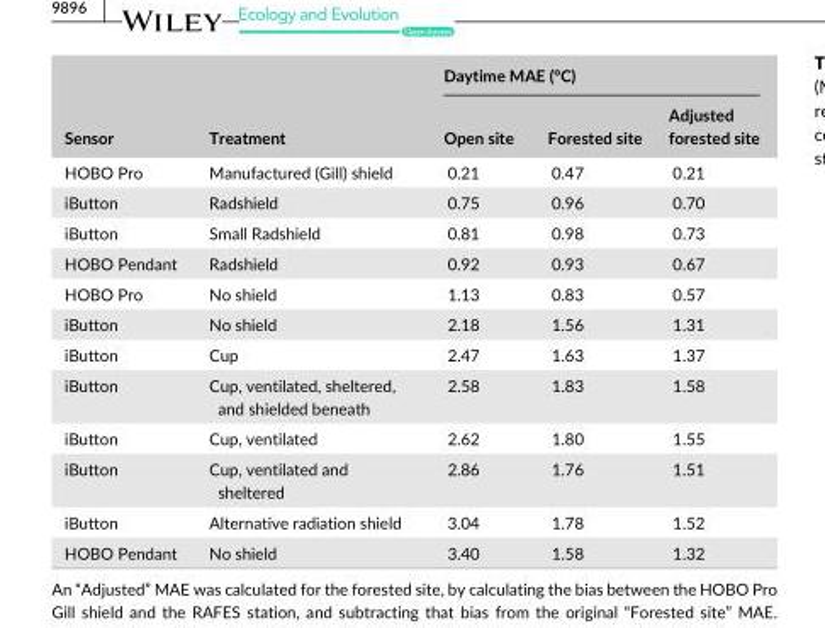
<table><thead><tr><td rowspan="2">Sensor</td><td rowspan="2">Treatment</td><td colspan="3">Daytime MAE (°C)</td></tr><tr><td>Open site</td><td>Forested site</td><td>Adjusted forested site</td></tr></thead><tbody><tr><td>HOBO Pro</td><td>Manufactured (Gill) shield</td><td>0.21</td><td>0.47</td><td>0.21</td></tr><tr><td>iButton</td><td>Radshield</td><td>0.75</td><td>0.96</td><td>0.70</td></tr><tr><td>iButton</td><td>Small Radshield</td><td>0.81</td><td>0.98</td><td>0.73</td></tr><tr><td>HOBO Pendant</td><td>Radshield</td><td>0.92</td><td>0.93</td><td>0.67</td></tr><tr><td>HOBO Pro</td><td>No shield</td><td>1.13</td><td>0.83</td><td>0.57</td></tr><tr><td>iButton</td><td>No shield</td><td>2.18</td><td>1.56</td><td>1.31</td></tr><tr><td>iButton</td><td>Cup</td><td>2.47</td><td>1.63</td><td>1.37</td></tr><tr><td>iButton</td><td>Cup, ventilated, sheltered, and shielded beneath</td><td>2.58</td><td>1.83</td><td>1.58</td></tr><tr><td>iButton</td><td>Cup, ventilated</td><td>2.62</td><td>1.80</td><td>1.55</td></tr><tr><td>iButton</td><td>Cup, ventilated and sheltered</td><td>2.86</td><td>1.76</td><td>1.51</td></tr><tr><td>iButton</td><td>Alternative radiation shield</td><td>3.04</td><td>1.78</td><td>1.52</td></tr><tr><td>HOBO Pendant</td><td>No shield</td><td>3.40</td><td>1.58</td><td>1.32</td></tr></tbody></table>